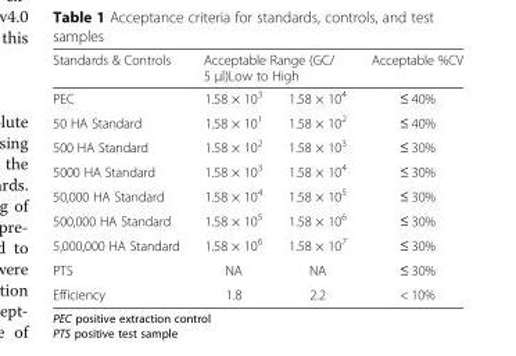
<table><thead><tr><td rowspan="2">Standards &amp; Controls PEC</td><td colspan="2">Acceptable Range (GC/ 5 μl)Low to High</td><td rowspan="2">Acceptable %CV ≤ 40%</td></tr><tr><td>1.58 × 10<sup>3</sup></td><td>1.58 × 10<sup>4</sup></td></tr></thead><tbody><tr><td>50 HA Standard</td><td>1.58 × 10<sup>1</sup></td><td>1.58 × 10<sup>2</sup></td><td>≤ 40%</td></tr><tr><td>500 HA Standard</td><td>1.58 × 10<sup>2</sup></td><td>1.58 × 10<sup>3</sup></td><td>≤ 30%</td></tr><tr><td>5000 HA Standard</td><td>1.58 × 10<sup>3</sup></td><td>1.58 × 10<sup>4</sup></td><td>≤ 30%</td></tr><tr><td>50,000 HA Standard</td><td>1.58 × 10<sup>4</sup></td><td>1.58 × 10<sup>5</sup></td><td>≤ 30%</td></tr><tr><td>500,000 HA Standard</td><td>1.58 × 10<sup>5</sup></td><td>1.58 × 10<sup>6</sup></td><td>≤ 30%</td></tr><tr><td>5,000,000 HA Standard</td><td>1.58 × 10<sup>6</sup></td><td>1.58 × 10<sup>7</sup></td><td>≤ 30%</td></tr><tr><td>PTS</td><td>NA</td><td>NA</td><td>≤ 30%</td></tr><tr><td>Efficiency</td><td>1.8</td><td>2.2</td><td>&lt; 10%</td></tr></tbody></table>